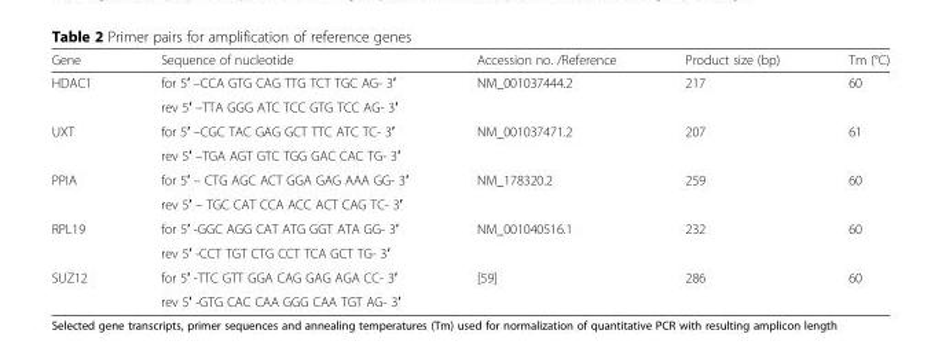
<table><thead><tr><td>Gene</td><td>Sequence of nucleotide</td><td>Accession no. /Reference</td><td>Product size (bp)</td><td>Tm (°C)</td></tr></thead><tbody><tr><td rowspan="2">HDAC1</td><td>for 5′ –CCA GTG CAG TTG TCT TGC AG- 3′</td><td rowspan="2">NM_001037444.2</td><td rowspan="2">217</td><td rowspan="2">60</td></tr><tr><td>rev 5′ –TTA GGG ATC TCC GTG TCC AG- 3′</td></tr><tr><td rowspan="2">UXT</td><td>for 5′ –CGC TAC GAG GCT TTC ATC TC- 3′</td><td rowspan="2">NM_001037471.2</td><td rowspan="2">207</td><td rowspan="2">61</td></tr><tr><td>rev 5′ –TGA AGT GTC TGG GAC CAC TG- 3′</td></tr><tr><td rowspan="2">PPIA</td><td>for 5′ – CTG AGC ACT GGA GAG AAA GG- 3′</td><td rowspan="2">NM_178320.2</td><td rowspan="2">259</td><td rowspan="2">60</td></tr><tr><td>rev 5′ – TGC CAT CCA ACC ACT CAG TC- 3′</td></tr><tr><td rowspan="2">RPL19</td><td>for 5′ -GGC AGG CAT ATG GGT ATA GG- 3′</td><td rowspan="2">NM_001040516.1</td><td rowspan="2">232</td><td rowspan="2">60</td></tr><tr><td>rev 5′ -CCT TGT CTG CCT TCA GCT TG- 3′</td></tr><tr><td rowspan="2">SUZ12</td><td>for 5′ -TTC GTT GGA CAG GAG AGA CC- 3′</td><td rowspan="2">[59]</td><td rowspan="2">286</td><td rowspan="2">60</td></tr><tr><td>rev 5′ -GTG CAC CAA GGG CAA TGT AG- 3′</td></tr></tbody></table>